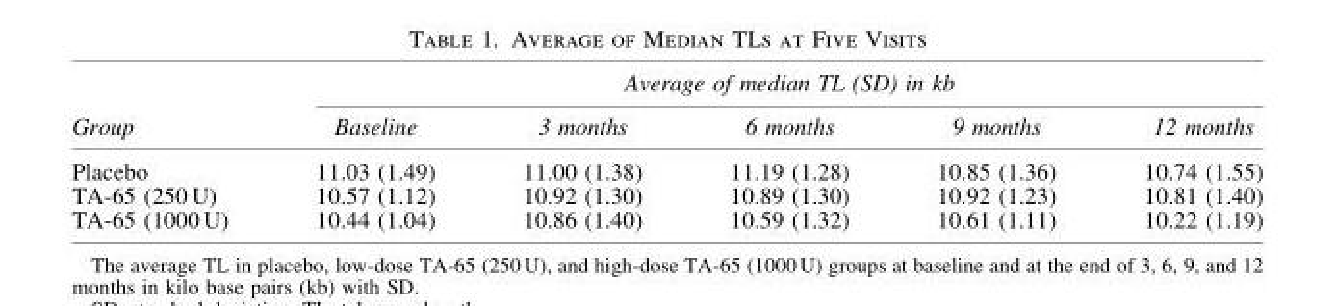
<table><thead><tr><td rowspan="2">Group</td><td colspan="5">Average of median TL (SD) in kb</td></tr><tr><td>Baseline</td><td>3 months</td><td>6 months</td><td>9 months</td><td>12 months</td></tr></thead><tbody><tr><td>Placebo</td><td>11.03 (1.49)</td><td>11.00 (1.38)</td><td>11.19 (1.28)</td><td>10.85 (1.36)</td><td>10.74 (1.55)</td></tr><tr><td>TA-65 (250 U)</td><td>10.57 (1.12)</td><td>10.92 (1.30)</td><td>10.89 (1.30)</td><td>10.92 (1.23)</td><td>10.81 (1.40)</td></tr><tr><td>TA-65 (1000 U)</td><td>10.44 (1.04)</td><td>10.86 (1.40)</td><td>10.59 (1.32)</td><td>10.61 (1.11)</td><td>10.22 (1.19)</td></tr></tbody></table>